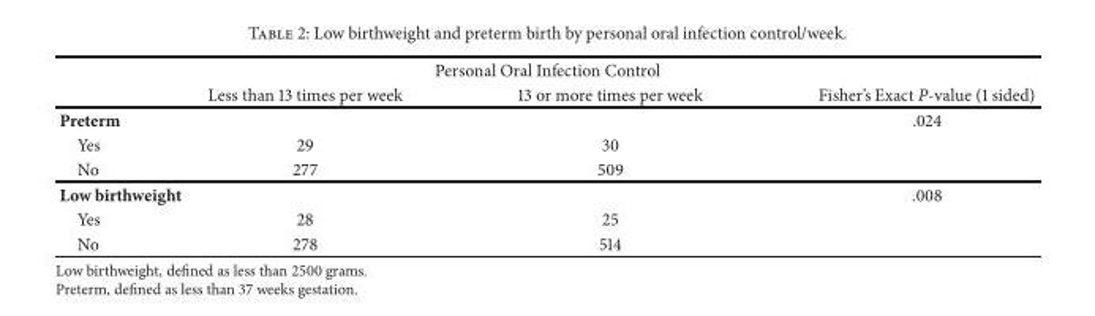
<table><thead><tr><td colspan="4">Personal Oral Infection Control</td></tr><tr><td></td><td>Less than 13 times per week</td><td>13 or more times per week</td><td>Fisher’s Exact P-value (1 sided)</td></tr></thead><tbody><tr><td colspan="3">Preterm</td><td>.024</td></tr><tr><td>Yes</td><td>29</td><td>30</td><td></td></tr><tr><td>No</td><td>277</td><td>509</td><td></td></tr><tr><td colspan="3">Low birthweight</td><td>.008</td></tr><tr><td>Yes</td><td>28</td><td>25</td><td></td></tr><tr><td>No</td><td>278</td><td>514</td><td></td></tr></tbody></table>